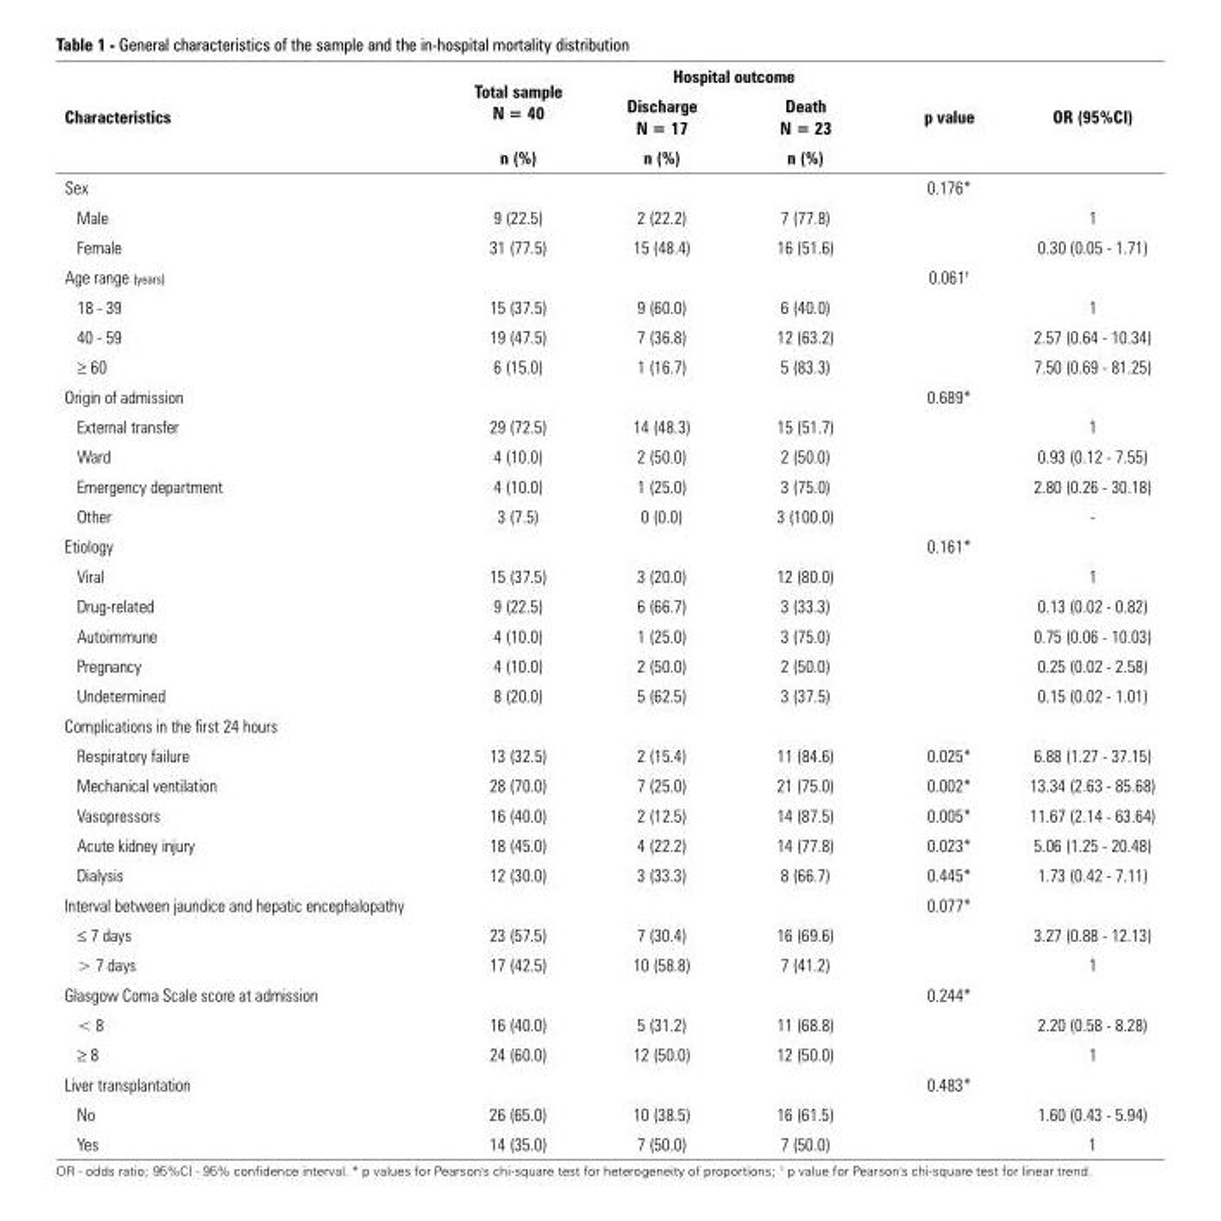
<table><thead><tr><td rowspan="3">Characteristics</td><td rowspan="3">Total sample N = 40 n (%)</td><td colspan="2">Hospital outcome</td><td rowspan="3">p value</td><td rowspan="3">OR (95%CI)</td></tr><tr><td rowspan="2">Discharge N = 17 n (%)</td><td rowspan="2">Death N = 23 n (%)</td></tr><tr></tr></thead><tbody><tr><td>Sex</td><td></td><td></td><td></td><td>0.176*</td><td></td></tr><tr><td>Male</td><td>9 (22.5)</td><td>2 (22.2)</td><td>7 (77.8)</td><td></td><td>1</td></tr><tr><td>Female</td><td>31 (77.5)</td><td>15 (48.4)</td><td>16 (51.6)</td><td></td><td>0.30 (0.05 - 1.71)</td></tr><tr><td>Age range (years)</td><td></td><td></td><td></td><td>0.061<sup>†</sup></td><td></td></tr><tr><td>18 - 39</td><td>15 (37.5)</td><td>9 (60.0)</td><td>6 (40.0)</td><td></td><td>1</td></tr><tr><td>40 - 59</td><td>19 (47.5)</td><td>7 (36.8)</td><td>12 (63.2)</td><td></td><td>2.57 (0.64 - 10.34)</td></tr><tr><td>≥ 60</td><td>6 (15.0)</td><td>1 (16.7)</td><td>5 (83.3)</td><td></td><td>7.50 (0.69 - 81.25)</td></tr><tr><td>Origin of admission</td><td></td><td></td><td></td><td>0.689*</td><td></td></tr><tr><td>External transfer</td><td>29 (72.5)</td><td>14 (48.3)</td><td>15 (51.7)</td><td></td><td>1</td></tr><tr><td>Ward</td><td>4 (10.0)</td><td>2 (50.0)</td><td>2 (50.0)</td><td></td><td>0.93 (0.12 - 7.55)</td></tr><tr><td>Emergency department</td><td>4 (10.0)</td><td>1 (25.0)</td><td>3 (75.0)</td><td></td><td>2.80 (0.26 - 30.18)</td></tr><tr><td>Other</td><td>3 (7.5)</td><td>0 (0.0)</td><td>3 (100.0)</td><td></td><td>-</td></tr><tr><td>Etiology</td><td></td><td></td><td></td><td>0.161*</td><td></td></tr><tr><td>Viral</td><td>15 (37.5)</td><td>3 (20.0)</td><td>12 (80.0)</td><td></td><td>1</td></tr><tr><td>Drug-related</td><td>9 (22.5)</td><td>6 (66.7)</td><td>3 (33.3)</td><td></td><td>0.13 (0.02 - 0.82)</td></tr><tr><td>Autoimmune</td><td>4 (10.0)</td><td>1 (25.0)</td><td>3 (75.0)</td><td></td><td>0.75 (0.06 - 10.03)</td></tr><tr><td>Pregnancy</td><td>4 (10.0)</td><td>2 (50.0)</td><td>2 (50.0)</td><td></td><td>0.25 (0.02 - 2.58)</td></tr><tr><td>Undetermined</td><td>8 (20.0)</td><td>5 (62.5)</td><td>3 (37.5)</td><td></td><td>0.15 (0.02 - 1.01)</td></tr><tr><td colspan="6">Complications in the first 24 hours</td></tr><tr><td>Respiratory failure</td><td>13 (32.5)</td><td>2 (15.4)</td><td>11 (84.6)</td><td>0.025*</td><td>6.88 (1.27 - 37.15)</td></tr><tr><td>Mechanical ventilation</td><td>28 (70.0)</td><td>7 (25.0)</td><td>21 (75.0)</td><td>0.002*</td><td>13.34 (2.63 - 85.68)</td></tr><tr><td>Vasopressors</td><td>16 (40.0)</td><td>2 (12.5)</td><td>14 (87.5)</td><td>0.005*</td><td>11.67 (2.14 - 63.64)</td></tr><tr><td>Acute kidney injury</td><td>18 (45.0)</td><td>4 (22.2)</td><td>14 (77.8)</td><td>0.023*</td><td>5.06 (1.25 - 20.48)</td></tr><tr><td>Dialysis</td><td>12 (30.0)</td><td>3 (33.3)</td><td>8 (66.7)</td><td>0.445*</td><td>1.73 (0.42 - 7.11)</td></tr><tr><td>Interval between jaundice and hepatic encephalopathy</td><td></td><td></td><td></td><td>0.077*</td><td></td></tr><tr><td>≤ 7 days</td><td>23 (57.5)</td><td>7 (30.4)</td><td>16 (69.6)</td><td></td><td>3.27 (0.88 - 12.13)</td></tr><tr><td>&gt; 7 days</td><td>17 (42.5)</td><td>10 (58.8)</td><td>7 (41.2)</td><td></td><td>1</td></tr><tr><td>Glasgow Coma Scale score at admission</td><td></td><td></td><td></td><td>0.244*</td><td></td></tr><tr><td>&lt; 8</td><td>16 (40.0)</td><td>5 (31.2)</td><td>11 (68.8)</td><td></td><td>2.20 (0.58 - 8.28)</td></tr><tr><td>≥ 8</td><td>24 (60.0)</td><td>12 (50.0)</td><td>12 (50.0)</td><td></td><td>1</td></tr><tr><td>Liver transplantation</td><td></td><td></td><td></td><td>0.483*</td><td></td></tr><tr><td>No</td><td>26 (65.0)</td><td>10 (38.5)</td><td>16 (61.5)</td><td></td><td>1.60 (0.43 - 5.94)</td></tr><tr><td>Yes</td><td>14 (35.0)</td><td>7 (50.0)</td><td>7 (50.0)</td><td></td><td>1</td></tr></tbody></table>